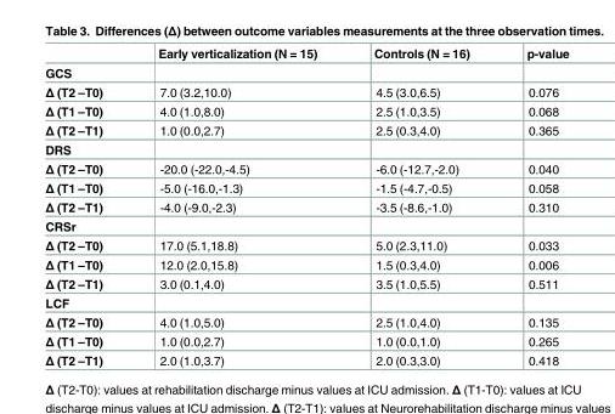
<table><thead><tr><td></td><td>Early verticalization (N = 15)</td><td>Controls (N = 16)</td><td>p-value</td></tr></thead><tbody><tr><td colspan="4">GCS</td></tr><tr><td>Δ (T2 –T0)</td><td>7.0 (3.2,10.0)</td><td>4.5 (3.0,6.5)</td><td>0.076</td></tr><tr><td>Δ (T1 –T0)</td><td>4.0 (1.0,8.0)</td><td>2.5 (1.0,3.5)</td><td>0.068</td></tr><tr><td>Δ (T2 –T1)</td><td>1.0 (0.0,2.7)</td><td>2.5 (0.3,4.0)</td><td>0.365</td></tr><tr><td colspan="4">DRS</td></tr><tr><td>Δ (T2 –T0)</td><td>-20.0 (-22.0,-4.5)</td><td>-6.0 (-12.7,-2.0)</td><td>0.040</td></tr><tr><td>Δ (T1 –T0)</td><td>-5.0 (-16.0,-1.3)</td><td>-1.5 (-4.7,-0.5)</td><td>0.058</td></tr><tr><td>Δ (T2 –T1)</td><td>-4.0 (-9.0,-2.3)</td><td>-3.5 (-8.6,-1.0)</td><td>0.310</td></tr><tr><td colspan="4">CRSr</td></tr><tr><td>Δ (T2 –T0)</td><td>17.0 (5.1,18.8)</td><td>5.0 (2.3,11.0)</td><td>0.033</td></tr><tr><td>Δ (T1 –T0)</td><td>12.0 (2.0,15.8)</td><td>1.5 (0.3,4.0)</td><td>0.006</td></tr><tr><td>Δ (T2 –T1)</td><td>3.0 (0.1,4.0)</td><td>3.5 (1.0,5.5)</td><td>0.511</td></tr><tr><td colspan="4">LCF</td></tr><tr><td>Δ (T2 –T0)</td><td>4.0 (1.0,5.0)</td><td>2.5 (1.0,4.0)</td><td>0.135</td></tr><tr><td>Δ (T1 –T0)</td><td>1.0 (0.0,2.7)</td><td>1.0 (0.0,1.0)</td><td>0.265</td></tr><tr><td>Δ (T2 –T1)</td><td>2.0 (1.0,3.7)</td><td>2.0 (0.3,3.0)</td><td>0.418</td></tr></tbody></table>